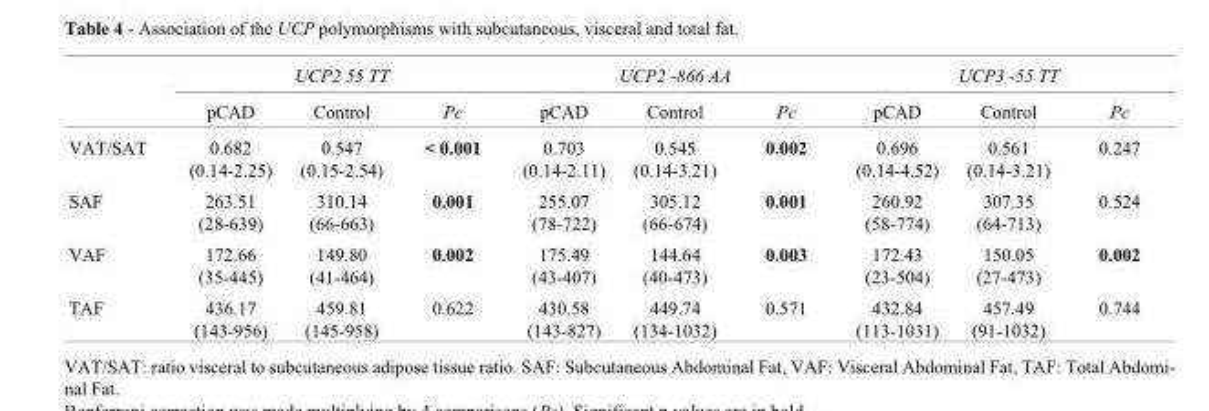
<table><thead><tr><td rowspan="2"></td><td colspan="3">UCP2 55 TT</td><td colspan="3">UCP2 -866 AA</td><td colspan="3">UCP3 -55 TT</td></tr><tr><td>pCAD</td><td>Control</td><td>Pc</td><td>pCAD</td><td>Control</td><td>Pc</td><td>pCAD</td><td>Control</td><td>Pc</td></tr></thead><tbody><tr><td>VAT/SAT</td><td>0.682 (0.14-2.25)</td><td>0.547 (0.15-2.54)</td><td>&lt; 0.001</td><td>0.703 (0.14-2.11)</td><td>0.545 (0.14-3.21)</td><td>0.002</td><td>0.696 (0.14-4.52)</td><td>0.561 (0.14-3.21)</td><td>0.247</td></tr><tr><td>SAF</td><td>263.51 (28-639)</td><td>310.14 (66-663)</td><td>0.001</td><td>255.07 (78-722)</td><td>305.12 (66-674)</td><td>0.001</td><td>260.92 (58-774)</td><td>307.35 (64-713)</td><td>0.524</td></tr><tr><td>VAF</td><td>172.66 (35-445)</td><td>149.80 (41-464)</td><td>0.002</td><td>175.49 (43-407)</td><td>144.64 (40-473)</td><td>0.003</td><td>172.43 (23-504)</td><td>150.05 (27-473)</td><td>0.002</td></tr><tr><td>TAF</td><td>436.17 (143-956)</td><td>459.81 (145-958)</td><td>0.622</td><td>430.58 (143-827)</td><td>449.74 (134-1032)</td><td>0.571</td><td>432.84 (113-1031)</td><td>457.49 (91-1032)</td><td>0.744</td></tr></tbody></table>